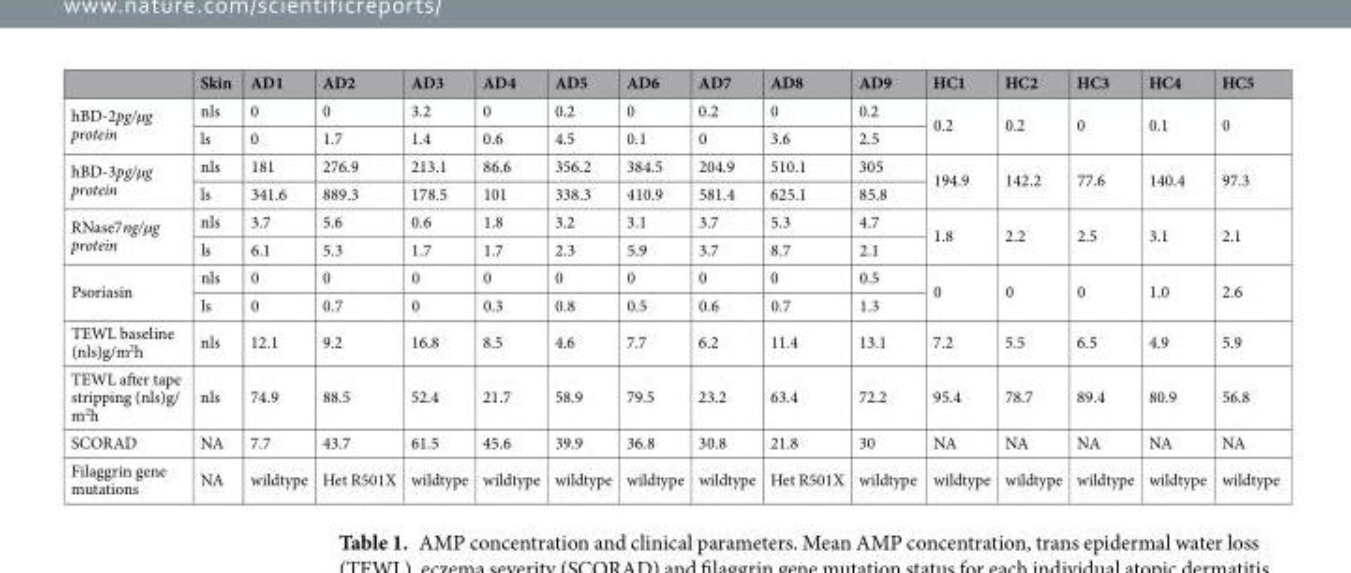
<table><thead><tr><td></td><td>Skin</td><td>AD1</td><td>AD2</td><td>AD3</td><td>AD4</td><td>AD5</td><td>AD6</td><td>AD7</td><td>AD8</td><td>AD9</td><td>HC1</td><td>HC2</td><td>HC3</td><td>HC4</td><td>HC5</td></tr></thead><tbody><tr><td rowspan="2">hBD-2pg/µg protein</td><td>nls</td><td>0</td><td>0</td><td>3.2</td><td>0</td><td>0.2</td><td>0</td><td>0.2</td><td>0</td><td>0.2</td><td rowspan="2">0.2</td><td rowspan="2">0.2</td><td rowspan="2">0</td><td rowspan="2">0.1</td><td rowspan="2">0</td></tr><tr><td>ls</td><td>0</td><td>1.7</td><td>1.4</td><td>0.6</td><td>4.5</td><td>0.1</td><td>0</td><td>3.6</td><td>2.5</td></tr><tr><td rowspan="2">hBD-3pg/µg protein</td><td>nls</td><td>181</td><td>276.9</td><td>213.1</td><td>86.6</td><td>356.2</td><td>384.5</td><td>204.9</td><td>510.1</td><td>305</td><td rowspan="2">194.9</td><td rowspan="2">142.2</td><td rowspan="2">77.6</td><td rowspan="2">140.4</td><td rowspan="2">97.3</td></tr><tr><td>ls</td><td>341.6</td><td>889.3</td><td>178.5</td><td>101</td><td>338.3</td><td>410.9</td><td>581.4</td><td>625.1</td><td>85.8</td></tr><tr><td rowspan="2">RNase7ng/µg protein</td><td>nls</td><td>3.7</td><td>5.6</td><td>0.6</td><td>1.8</td><td>3.2</td><td>3.1</td><td>3.7</td><td>5.3</td><td>4.7</td><td rowspan="2">1.8</td><td rowspan="2">2.2</td><td rowspan="2">2.5</td><td rowspan="2">3.1</td><td rowspan="2">2.1</td></tr><tr><td>ls</td><td>6.1</td><td>5.3</td><td>1.7</td><td>1.7</td><td>2.3</td><td>5.9</td><td>3.7</td><td>8.7</td><td>2.1</td></tr><tr><td rowspan="2">Psoriasin</td><td>nls</td><td>0</td><td>0</td><td>0</td><td>0</td><td>0</td><td>0</td><td>0</td><td>0</td><td>0.5</td><td rowspan="2">0</td><td rowspan="2">0</td><td rowspan="2">0</td><td rowspan="2">1.0</td><td rowspan="2">2.6</td></tr><tr><td>ls</td><td>0</td><td>0.7</td><td>0</td><td>0.3</td><td>0.8</td><td>0.5</td><td>0.6</td><td>0.7</td><td>1.3</td></tr><tr><td>TEWL baseline (nls)g/m<sup>2</sup>h</td><td>nls</td><td>12.1</td><td>9.2</td><td>16.8</td><td>8.5</td><td>4.6</td><td>7.7</td><td>6.2</td><td>11.4</td><td>13.1</td><td>7.2</td><td>5.5</td><td>6.5</td><td>4.9</td><td>5.9</td></tr><tr><td>TEWL after tape stripping (nls)g/ m<sup>2</sup>h</td><td>nls</td><td>74.9</td><td>88.5</td><td>52.4</td><td>21.7</td><td>58.9</td><td>79.5</td><td>23.2</td><td>63.4</td><td>72.2</td><td>95.4</td><td>78.7</td><td>89.4</td><td>80.9</td><td>56.8</td></tr><tr><td>SCORAD</td><td>NA</td><td>7.7</td><td>43.7</td><td>61.5</td><td>45.6</td><td>39.9</td><td>36.8</td><td>30.8</td><td>21.8</td><td>30</td><td>NA</td><td>NA</td><td>NA</td><td>NA</td><td>NA</td></tr><tr><td>Filaggrin gene mutations</td><td>NA</td><td>wildtype</td><td>Het R501X</td><td>wildtype</td><td>wildtype</td><td>wildtype</td><td>wildtype</td><td>wildtype</td><td>Het R501X</td><td>wildtype</td><td>wildtype</td><td>wildtype</td><td>wildtype</td><td>wildtype</td><td>wildtype</td></tr></tbody></table>